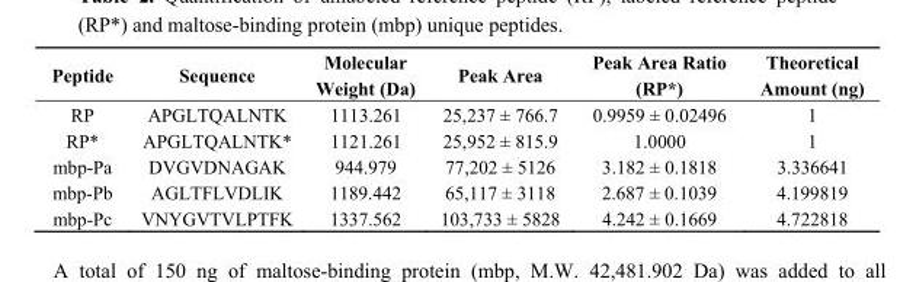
<table><thead><tr><td>Peptide</td><td>Sequence</td><td>Molecular Weight (Da)</td><td>Peak Area</td><td>Peak Area Ratio (RP*)</td><td>Theoretical Amount (ng)</td></tr></thead><tbody><tr><td>RP</td><td>APGLTQALNTK</td><td>1113.261</td><td>25,237 ± 766.7</td><td>0.9959 ± 0.02496</td><td>1</td></tr><tr><td>RP*</td><td>APGLTQALNTK*</td><td>1121.261</td><td>25,952 ± 815.9</td><td>1.0000</td><td>1</td></tr><tr><td>mbp-Pa</td><td>DVGVDNAGAK</td><td>944.979</td><td>77,202 ± 5126</td><td>3.182 ± 0.1818</td><td>3.336641</td></tr><tr><td>mbp-Pb</td><td>AGLTFLVDLIK</td><td>1189.442</td><td>65,117 ± 3118</td><td>2.687 ± 0.1039</td><td>4.199819</td></tr><tr><td>mbp-Pc</td><td>VNYGVTVLPTFK</td><td>1337.562</td><td>103,733 ± 5828</td><td>4.242 ± 0.1669</td><td>4.722818</td></tr></tbody></table>